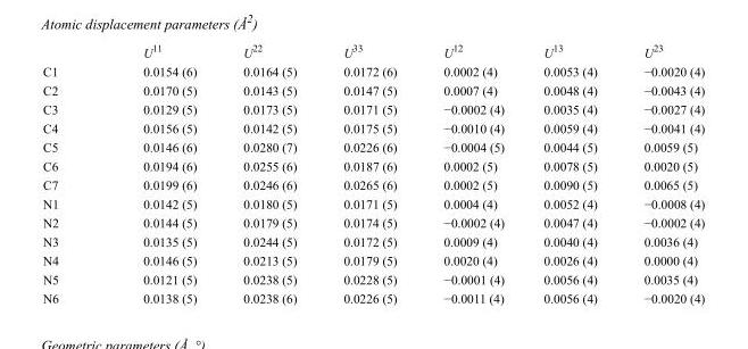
<table><thead><tr><td></td><td>U<sup>11</sup></td><td>U<sup>22</sup></td><td>U<sup>33</sup></td><td>U<sup>12</sup></td><td>U<sup>13</sup></td><td>U<sup>23</sup></td></tr></thead><tbody><tr><td>C1</td><td>0.0154 (6)</td><td>0.0164 (5)</td><td>0.0172 (6)</td><td>0.0002 (4)</td><td>0.0053 (4)</td><td>−0.0020 (4)</td></tr><tr><td>C2</td><td>0.0170 (5)</td><td>0.0143 (5)</td><td>0.0147 (5)</td><td>0.0007 (4)</td><td>0.0048 (4)</td><td>−0.0043 (4)</td></tr><tr><td>C3</td><td>0.0129 (5)</td><td>0.0173 (5)</td><td>0.0171 (5)</td><td>−0.0002 (4)</td><td>0.0035 (4)</td><td>−0.0027 (4)</td></tr><tr><td>C4</td><td>0.0156 (5)</td><td>0.0142 (5)</td><td>0.0175 (5)</td><td>−0.0010 (4)</td><td>0.0059 (4)</td><td>−0.0041 (4)</td></tr><tr><td>C5</td><td>0.0146 (6)</td><td>0.0280 (7)</td><td>0.0226 (6)</td><td>−0.0004 (5)</td><td>0.0044 (5)</td><td>0.0059 (5)</td></tr><tr><td>C6</td><td>0.0194 (6)</td><td>0.0255 (6)</td><td>0.0187 (6)</td><td>0.0002 (5)</td><td>0.0078 (5)</td><td>0.0020 (5)</td></tr><tr><td>C7</td><td>0.0199 (6)</td><td>0.0246 (6)</td><td>0.0265 (6)</td><td>0.0002 (5)</td><td>0.0090 (5)</td><td>0.0065 (5)</td></tr><tr><td>N1</td><td>0.0142 (5)</td><td>0.0180 (5)</td><td>0.0171 (5)</td><td>0.0004 (4)</td><td>0.0052 (4)</td><td>−0.0008 (4)</td></tr><tr><td>N2</td><td>0.0144 (5)</td><td>0.0179 (5)</td><td>0.0174 (5)</td><td>−0.0002 (4)</td><td>0.0047 (4)</td><td>−0.0002 (4)</td></tr><tr><td>N3</td><td>0.0135 (5)</td><td>0.0244 (5)</td><td>0.0172 (5)</td><td>0.0009 (4)</td><td>0.0040 (4)</td><td>0.0036 (4)</td></tr><tr><td>N4</td><td>0.0146 (5)</td><td>0.0213 (5)</td><td>0.0179 (5)</td><td>0.0020 (4)</td><td>0.0026 (4)</td><td>0.0000 (4)</td></tr><tr><td>N5</td><td>0.0121 (5)</td><td>0.0238 (5)</td><td>0.0228 (5)</td><td>−0.0001 (4)</td><td>0.0056 (4)</td><td>0.0035 (4)</td></tr><tr><td>N6</td><td>0.0138 (5)</td><td>0.0238 (6)</td><td>0.0226 (5)</td><td>−0.0011 (4)</td><td>0.0056 (4)</td><td>−0.0020 (4)</td></tr></tbody></table>